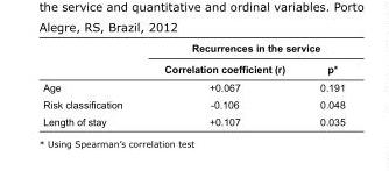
<table><thead><tr><td rowspan="2"></td><td colspan="2">Recurrences in the service</td></tr><tr><td>Correlation coefficient (r)</td><td>p*</td></tr></thead><tbody><tr><td>Age</td><td>+0.067</td><td>0.191</td></tr><tr><td>Risk classification</td><td>-0.106</td><td>0.048</td></tr><tr><td>Length of stay</td><td>+0.107</td><td>0.035</td></tr></tbody></table>